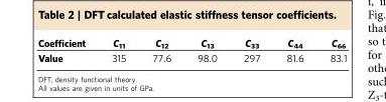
<table><thead><tr><td>Coefficient</td><td>C<sub>11</sub></td><td>C<sub>12</sub></td><td>C<sub>13</sub></td><td>C<sub>33</sub></td><td>C<sub>44</sub></td><td>C<sub>66</sub></td></tr></thead><tbody><tr><td>Value</td><td>315</td><td>77.6</td><td>98.0</td><td>297</td><td>81.6</td><td>83.1</td></tr></tbody></table>